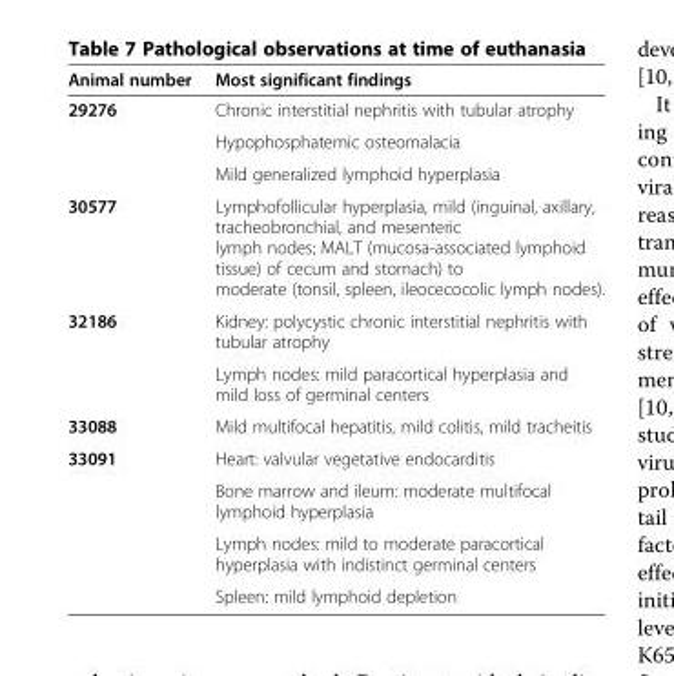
<table><thead><tr><td>Animal number</td><td>Most significant findings</td></tr></thead><tbody><tr><td rowspan="3">29276</td><td>Chronic interstitial nephritis with tubular atrophy</td></tr><tr><td>Hypophosphatemic osteomalacia</td></tr><tr><td>Mild generalized lymphoid hyperplasia</td></tr><tr><td>30577</td><td>Lymphofollicular hyperplasia, mild (inguinal, axillary, tracheobronchial, and mesenteric lymph nodes; MALT (mucosa-associated lymphoid tissue) of cecum and stomach) to moderate (tonsil, spleen, ileocecocolic lymph nodes).</td></tr><tr><td rowspan="2">32186</td><td>Kidney: polycystic chronic interstitial nephritis with tubular atrophy</td></tr><tr><td>Lymph nodes: mild paracortical hyperplasia and mild loss of germinal centers</td></tr><tr><td>33088</td><td>Mild multifocal hepatitis, mild colitis, mild tracheitis</td></tr><tr><td rowspan="4">33091</td><td>Heart: valvular vegetative endocarditis</td></tr><tr><td>Bone marrow and ileum: moderate multifocal lymphoid hyperplasia</td></tr><tr><td>Lymph nodes: mild to moderate paracortical hyperplasia with indistinct germinal centers</td></tr><tr><td>Spleen: mild lymphoid depletion</td></tr></tbody></table>